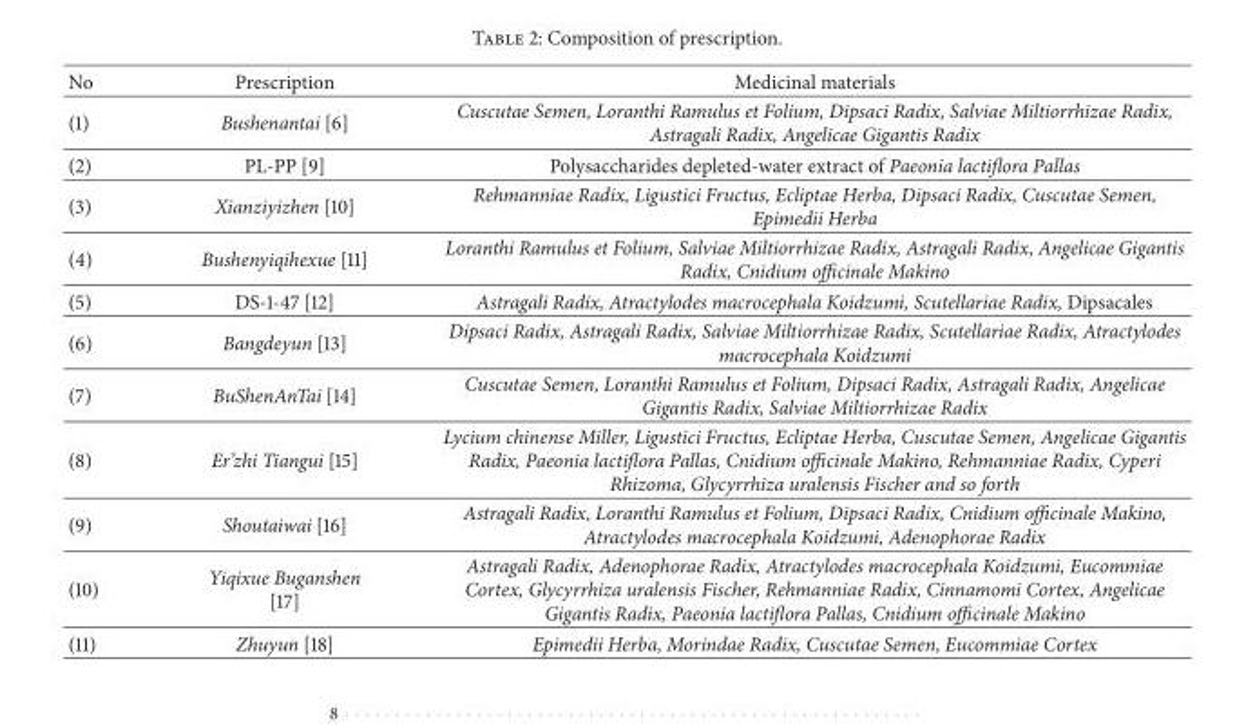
<table><thead><tr><td>No</td><td>Prescription</td><td>Medicinal materials</td></tr></thead><tbody><tr><td>(1)</td><td>Bushenantai [6]</td><td>Cuscutae Semen, Loranthi Ramulus et Folium, Dipsaci Radix, Salviae Miltiorrhizae Radix, Astragali Radix, Angelicae Gigantis Radix</td></tr><tr><td>(2)</td><td>PL-PP [9]</td><td>Polysaccharides depleted-water extract of Paeonia lactiflora Pallas</td></tr><tr><td>(3)</td><td>Xianziyizhen [10]</td><td>Rehmanniae Radix, Ligustici Fructus, Ecliptae Herba, Dipsaci Radix, Cuscutae Semen, Epimedii Herba</td></tr><tr><td>(4)</td><td>Bushenyiqihexue [11]</td><td>Loranthi Ramulus et Folium, Salviae Miltiorrhizae Radix, Astragali Radix, Angelicae Gigantis Radix, Cnidium officinale Makino</td></tr><tr><td>(5)</td><td>DS-1-47 [12]</td><td>Astragali Radix, Atractylodes macrocephala Koidzumi, Scutellariae Radix, Dipsacales</td></tr><tr><td>(6)</td><td>Bangdeyun [13]</td><td>Dipsaci Radix, Astragali Radix, Salviae Miltiorrhizae Radix, Scutellariae Radix, Atractylodes macrocephala Koidzumi</td></tr><tr><td>(7)</td><td>BuShenAnTai [14]</td><td>Cuscutae Semen, Loranthi Ramulus et Folium, Dipsaci Radix, Astragali Radix, Angelicae Gigantis Radix, Salviae Miltiorrhizae Radix</td></tr><tr><td>(8)</td><td>Er’zhi Tiangui [15]</td><td>Lycium chinense Miller, Ligustici Fructus, Ecliptae Herba, Cuscutae Semen, Angelicae Gigantis Radix, Paeonia lactiflora Pallas, Cnidium officinale Makino, Rehmanniae Radix, Cyperi Rhizoma, Glycyrrhiza uralensis Fischer and so forth</td></tr><tr><td>(9)</td><td>Shoutaiwai [16]</td><td>Astragali Radix, Loranthi Ramulus et Folium, Dipsaci Radix, Cnidium officinale Makino, Atractylodes macrocephala Koidzumi, Adenophorae Radix</td></tr><tr><td>(10)</td><td>Yiqixue Buganshen [17]</td><td>Astragali Radix, Adenophorae Radix, Atractylodes macrocephala Koidzumi, Eucommiae Cortex, Glycyrrhiza uralensis Fischer, Rehmanniae Radix, Cinnamomi Cortex, Angelicae Gigantis Radix, Paeonia lactiflora Pallas, Cnidium officinale Makino</td></tr><tr><td>(11)</td><td>Zhuyun [18]</td><td>Epimedii Herba, Morindae Radix, Cuscutae Semen, Eucommiae Cortex</td></tr></tbody></table>